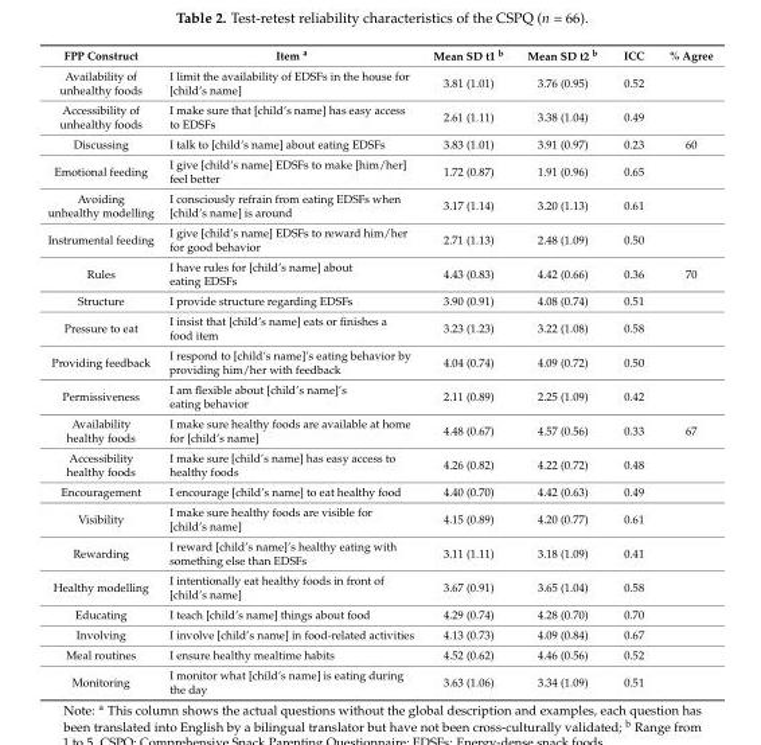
<table><thead><tr><td>FPP Construct</td><td>Item <sup>a</sup></td><td>Mean SD t1 <sup>b</sup></td><td>Mean SD t2 <sup>b</sup></td><td>ICC</td><td>% Agree</td></tr></thead><tbody><tr><td>Availability of unhealthy foods</td><td>I limit the availability of EDSFs in the house for [child’s name]</td><td>3.81 (1.01)</td><td>3.76 (0.95)</td><td>0.52</td><td></td></tr><tr><td>Accessibility of unhealthy foods</td><td>I make sure that [child’s name] has easy access to EDSFs</td><td>2.61 (1.11)</td><td>3.38 (1.04)</td><td>0.49</td><td></td></tr><tr><td>Discussing</td><td>I talk to [child’s name] about eating EDSFs</td><td>3.83 (1.01)</td><td>3.91 (0.97)</td><td>0.23</td><td>60</td></tr><tr><td>Emotional feeding</td><td>I give [child’s name] EDSFs to make [him/her] feel better</td><td>1.72 (0.87)</td><td>1.91 (0.96)</td><td>0.65</td><td></td></tr><tr><td>Avoiding unhealthy modelling</td><td>I consciously refrain from eating EDSFs when [child’s name] is around</td><td>3.17 (1.14)</td><td>3.20 (1.13)</td><td>0.61</td><td></td></tr><tr><td>Instrumental feeding</td><td>I give [child’s name] EDSFs to reward him/her for good behavior</td><td>2.71 (1.13)</td><td>2.48 (1.09)</td><td>0.50</td><td></td></tr><tr><td>Rules</td><td>I have rules for [child’s name] about eating EDSFs</td><td>4.43 (0.83)</td><td>4.42 (0.66)</td><td>0.36</td><td>70</td></tr><tr><td>Structure</td><td>I provide structure regarding EDSFs</td><td>3.90 (0.91)</td><td>4.08 (0.74)</td><td>0.51</td><td></td></tr><tr><td>Pressure to eat</td><td>I insist that [child’s name] eats or finishes a food item</td><td>3.23 (1.23)</td><td>3.22 (1.08)</td><td>0.58</td><td></td></tr><tr><td>Providing feedback</td><td>I respond to [child’s name]’s eating behavior by providing him/her with feedback</td><td>4.04 (0.74)</td><td>4.09 (0.72)</td><td>0.50</td><td></td></tr><tr><td>Permissiveness</td><td>I am flexible about [child’s name]’s eating behavior</td><td>2.11 (0.89)</td><td>2.25 (1.09)</td><td>0.42</td><td></td></tr><tr><td>Availability healthy foods</td><td>I make sure healthy foods are available at home for [child’s name]</td><td>4.48 (0.67)</td><td>4.57 (0.56)</td><td>0.33</td><td>67</td></tr><tr><td>Accessibility healthy foods</td><td>I make sure [child’s name] has easy access to healthy foods</td><td>4.26 (0.82)</td><td>4.22 (0.72)</td><td>0.48</td><td></td></tr><tr><td>Encouragement</td><td>I encourage [child’s name] to eat healthy food</td><td>4.40 (0.70)</td><td>4.42 (0.63)</td><td>0.49</td><td></td></tr><tr><td>Visibility</td><td>I make sure healthy foods are visible for [child’s name]</td><td>4.15 (0.89)</td><td>4.20 (0.77)</td><td>0.61</td><td></td></tr><tr><td>Rewarding</td><td>I reward [child’s name]’s healthy eating with something else than EDSFs</td><td>3.11 (1.11)</td><td>3.18 (1.09)</td><td>0.41</td><td></td></tr><tr><td>Healthy modelling</td><td>I intentionally eat healthy foods in front of [child’s name]</td><td>3.67 (0.91)</td><td>3.65 (1.04)</td><td>0.58</td><td></td></tr><tr><td>Educating</td><td>I teach [child’s name] things about food</td><td>4.29 (0.74)</td><td>4.28 (0.70)</td><td>0.70</td><td></td></tr><tr><td>Involving</td><td>I involve [child’s name] in food-related activities</td><td>4.13 (0.73)</td><td>4.09 (0.84)</td><td>0.67</td><td></td></tr><tr><td>Meal routines</td><td>I ensure healthy mealtime habits</td><td>4.52 (0.62)</td><td>4.46 (0.56)</td><td>0.52</td><td></td></tr><tr><td>Monitoring</td><td>I monitor what [child’s name] is eating during the day</td><td>3.63 (1.06)</td><td>3.34 (1.09)</td><td>0.51</td><td></td></tr></tbody></table>